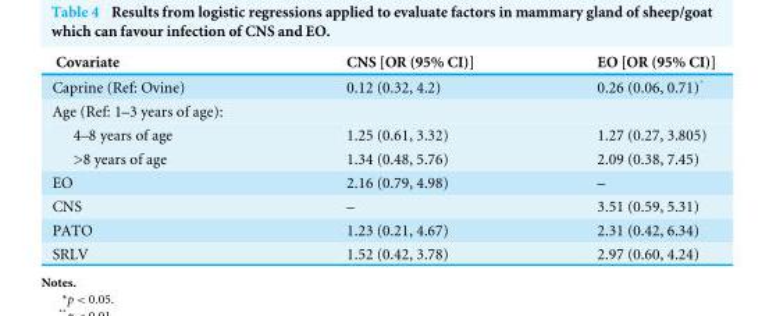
<table><thead><tr><td>Covariate</td><td>CNS [OR (95% CI)]</td><td>EO [OR (95% CI)]</td></tr></thead><tbody><tr><td>Caprine (Ref: Ovine)</td><td>0.12 (0.32, 4.2)</td><td>0.26 (0.06, 0.71)*</td></tr><tr><td colspan="3">Age (Ref: 1–3 years of age):</td></tr><tr><td>4–8 years of age</td><td>1.25 (0.61, 3.32)</td><td>1.27 (0.27, 3.805)</td></tr><tr><td>&gt;8 years of age</td><td>1.34 (0.48, 5.76)</td><td>2.09 (0.38, 7.45)</td></tr><tr><td>EO</td><td>2.16 (0.79, 4.98)</td><td>–</td></tr><tr><td>CNS</td><td>–</td><td>3.51 (0.59, 5.31)</td></tr><tr><td>PATO</td><td>1.23 (0.21, 4.67)</td><td>2.31 (0.42, 6.34)</td></tr><tr><td>SRLV</td><td>1.52 (0.42, 3.78)</td><td>2.97 (0.60, 4.24)</td></tr></tbody></table>